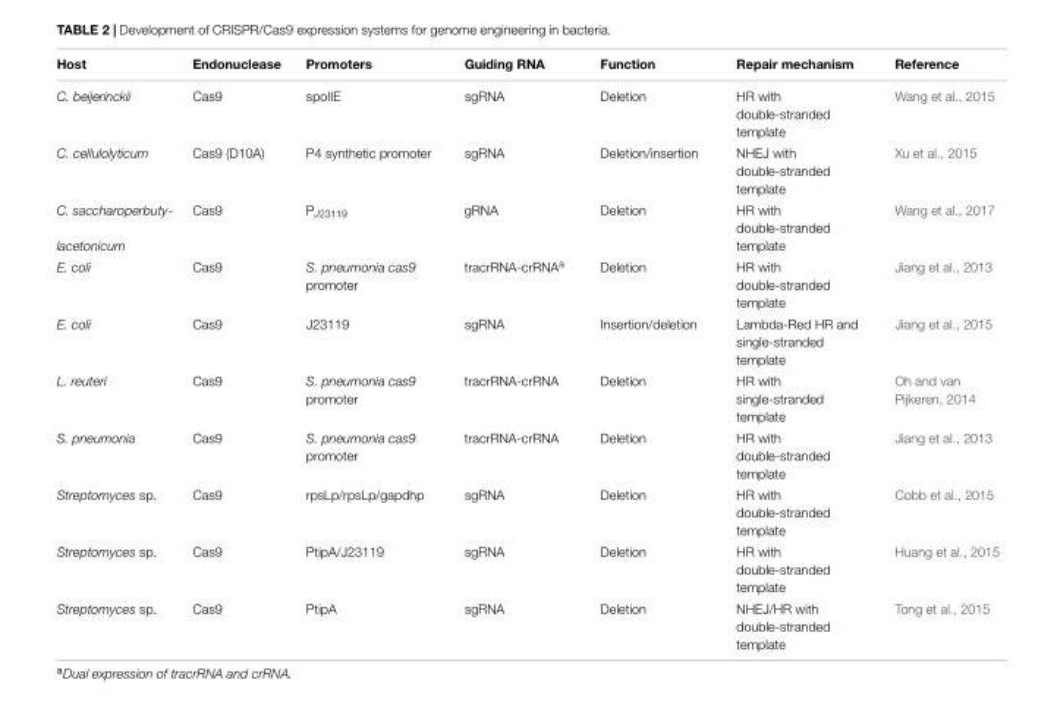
<table><thead><tr><td>Host</td><td>Endonuclease</td><td>Promoters</td><td>Guiding RNA</td><td>Function</td><td>Repair mechanism</td><td>Reference</td></tr></thead><tbody><tr><td>C. beijerinckii</td><td>Cas9</td><td>spoIIE</td><td>sgRNA</td><td>Deletion</td><td>HR with double-stranded template</td><td>Wang et al., 2015</td></tr><tr><td>C. cellulolyticum</td><td>Cas9 (D10A)</td><td>P4 synthetic promoter</td><td>sgRNA</td><td>Deletion/insertion</td><td>NHEJ with double-stranded template</td><td>Xu et al., 2015</td></tr><tr><td>C. saccharoperbuty- lacetonicum</td><td>Cas9</td><td>P<sub>J23119</sub></td><td>gRNA</td><td>Deletion</td><td>HR with double-stranded template</td><td>Wang et al., 2017</td></tr><tr><td>E. coli</td><td>Cas9</td><td>S. pneumonia cas9 promoter</td><td>tracrRNA-crRNA<sup>a</sup></td><td>Deletion</td><td>HR with double-stranded template</td><td>Jiang et al., 2013</td></tr><tr><td>E. coli</td><td>Cas9</td><td>J23119</td><td>sgRNA</td><td>Insertion/deletion</td><td>Lambda-Red HR and single-stranded template</td><td>Jiang et al., 2015</td></tr><tr><td>L. reuteri</td><td>Cas9</td><td>S. pneumonia cas9 promoter</td><td>tracrRNA-crRNA</td><td>Deletion</td><td>HR with single-stranded template</td><td>Oh and van Pijkeren, 2014</td></tr><tr><td>S. pneumonia</td><td>Cas9</td><td>S. pneumonia cas9 promoter</td><td>tracrRNA-crRNA</td><td>Deletion</td><td>HR with double-stranded template</td><td>Jiang et al., 2013</td></tr><tr><td>Streptomyces sp.</td><td>Cas9</td><td>rpsLp/rpsLp/gapdhp</td><td>sgRNA</td><td>Deletion</td><td>HR with double-stranded template</td><td>Cobb et al., 2015</td></tr><tr><td>Streptomyces sp.</td><td>Cas9</td><td>PtipA/J23119</td><td>sgRNA</td><td>Deletion</td><td>HR with double-stranded template</td><td>Huang et al., 2015</td></tr><tr><td>Streptomyces sp.</td><td>Cas9</td><td>PtipA</td><td>sgRNA</td><td>Deletion</td><td>NHEJ/HR with double-stranded template</td><td>Tong et al., 2015</td></tr></tbody></table>